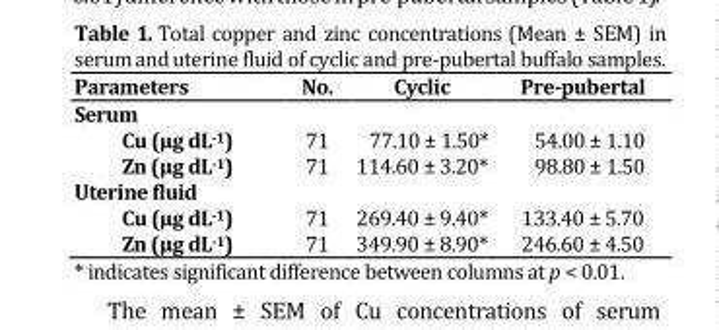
<table><thead><tr><td>Parameters</td><td>No.</td><td>Cyclic</td><td>Pre-pubertal</td></tr></thead><tbody><tr><td>Serum Cu (μg dL<sup>-1</sup>)</td><td>71</td><td>77.10 ± 1.50*</td><td>54.00 ± 1.10</td></tr><tr><td>Zn (μg dL<sup>-1</sup>)</td><td>71</td><td>114.60 ± 3.20*</td><td>98.80 ± 1.50</td></tr><tr><td>Uterine fluid Cu (μg dL<sup>-1</sup>)</td><td>71</td><td>269.40 ± 9.40*</td><td>133.40 ± 5.70</td></tr><tr><td>Zn (μg dL<sup>-1</sup>)</td><td>71</td><td>349.90 ± 8.90*</td><td>246.60 ± 4.50</td></tr></tbody></table>